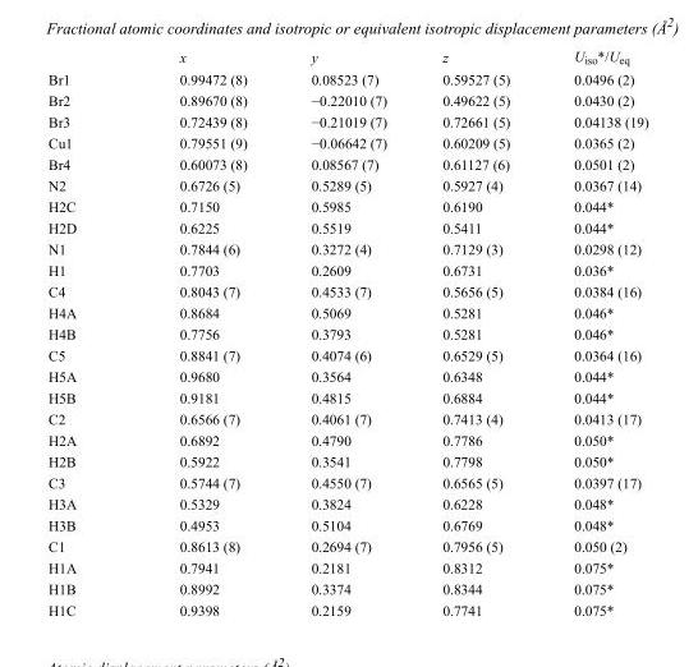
<table><thead><tr><td></td><td>x</td><td>y</td><td>z</td><td>U<sub>iso</sub>*/U<sub>eq</sub></td></tr></thead><tbody><tr><td>Br1</td><td>0.99472 (8)</td><td>0.08523 (7)</td><td>0.59527 (5)</td><td>0.0496 (2)</td></tr><tr><td>Br2</td><td>0.89670 (8)</td><td>−0.22010 (7)</td><td>0.49622 (5)</td><td>0.0430 (2)</td></tr><tr><td>Br3</td><td>0.72439 (8)</td><td>−0.21019 (7)</td><td>0.72661 (5)</td><td>0.04138 (19)</td></tr><tr><td>Cu1</td><td>0.79551 (9)</td><td>−0.06642 (7)</td><td>0.60209 (5)</td><td>0.0365 (2)</td></tr><tr><td>Br4</td><td>0.60073 (8)</td><td>0.08567 (7)</td><td>0.61127 (6)</td><td>0.0501 (2)</td></tr><tr><td>N2</td><td>0.6726 (5)</td><td>0.5289 (5)</td><td>0.5927 (4)</td><td>0.0367 (14)</td></tr><tr><td>H2C</td><td>0.7150</td><td>0.5985</td><td>0.6190</td><td>0.044*</td></tr><tr><td>H2D</td><td>0.6225</td><td>0.5519</td><td>0.5411</td><td>0.044*</td></tr><tr><td>N1</td><td>0.7844 (6)</td><td>0.3272 (4)</td><td>0.7129 (3)</td><td>0.0298 (12)</td></tr><tr><td>H1</td><td>0.7703</td><td>0.2609</td><td>0.6731</td><td>0.036*</td></tr><tr><td>C4</td><td>0.8043 (7)</td><td>0.4533 (7)</td><td>0.5656 (5)</td><td>0.0384 (16)</td></tr><tr><td>H4A</td><td>0.8684</td><td>0.5069</td><td>0.5281</td><td>0.046*</td></tr><tr><td>H4B</td><td>0.7756</td><td>0.3793</td><td>0.5281</td><td>0.046*</td></tr><tr><td>C5</td><td>0.8841 (7)</td><td>0.4074 (6)</td><td>0.6529 (5)</td><td>0.0364 (16)</td></tr><tr><td>H5A</td><td>0.9680</td><td>0.3564</td><td>0.6348</td><td>0.044*</td></tr><tr><td>H5B</td><td>0.9181</td><td>0.4815</td><td>0.6884</td><td>0.044*</td></tr><tr><td>C2</td><td>0.6566 (7)</td><td>0.4061 (7)</td><td>0.7413 (4)</td><td>0.0413 (17)</td></tr><tr><td>H2A</td><td>0.6892</td><td>0.4790</td><td>0.7786</td><td>0.050*</td></tr><tr><td>H2B</td><td>0.5922</td><td>0.3541</td><td>0.7798</td><td>0.050*</td></tr><tr><td>C3</td><td>0.5744 (7)</td><td>0.4550 (7)</td><td>0.6565 (5)</td><td>0.0397 (17)</td></tr><tr><td>H3A</td><td>0.5329</td><td>0.3824</td><td>0.6228</td><td>0.048*</td></tr><tr><td>H3B</td><td>0.4953</td><td>0.5104</td><td>0.6769</td><td>0.048*</td></tr><tr><td>C1</td><td>0.8613 (8)</td><td>0.2694 (7)</td><td>0.7956 (5)</td><td>0.050 (2)</td></tr><tr><td>H1A</td><td>0.7941</td><td>0.2181</td><td>0.8312</td><td>0.075*</td></tr><tr><td>H1B</td><td>0.8992</td><td>0.3374</td><td>0.8344</td><td>0.075*</td></tr><tr><td>H1C</td><td>0.9398</td><td>0.2159</td><td>0.7741</td><td>0.075*</td></tr></tbody></table>